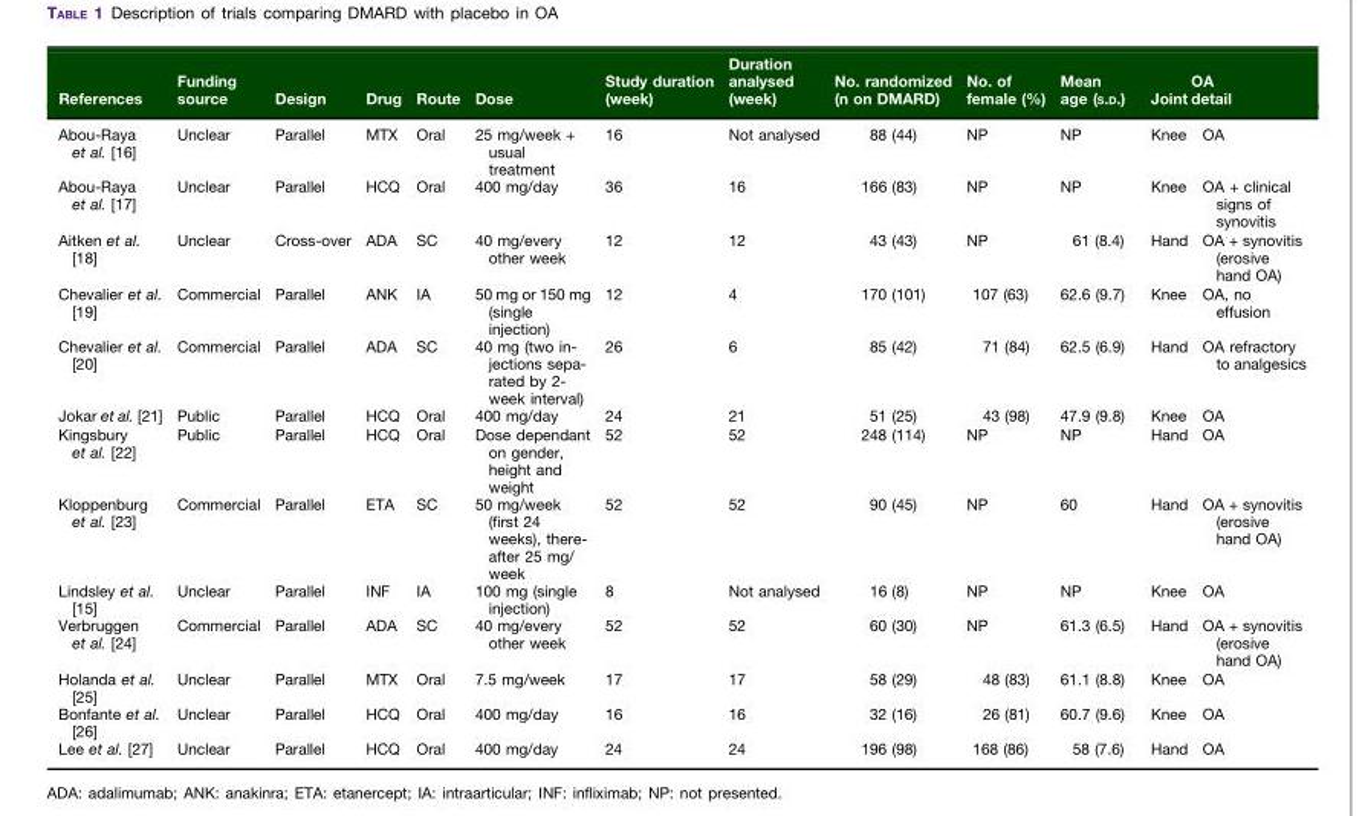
<table><thead><tr><td>References</td><td>Funding source</td><td>Design</td><td>Drug</td><td>Route</td><td>Dose</td><td>Study duration (week)</td><td>Duration analysed (week)</td><td>No. randomized (n on DMARD)</td><td>No. of female (%)</td><td>Mean age (S.D.)</td><td>Joint</td><td>OA detail</td></tr></thead><tbody><tr><td>Abou-Raya et al. [16]</td><td>Unclear</td><td>Parallel</td><td>MTX</td><td>Oral</td><td>25 mg/week + usual treatment</td><td>16</td><td>Not analysed</td><td>88 (44)</td><td>NP</td><td>NP</td><td>Knee</td><td>OA</td></tr><tr><td>Abou-Raya et al. [17]</td><td>Unclear</td><td>Parallel</td><td>HCQ</td><td>Oral</td><td>400 mg/day</td><td>36</td><td>16</td><td>166 (83)</td><td>NP</td><td>NP</td><td>Knee</td><td>OA + clinical signs of synovitis</td></tr><tr><td>Aitken et al. [18]</td><td>Unclear</td><td>Cross-over</td><td>ADA</td><td>SC</td><td>40 mg/every other week</td><td>12</td><td>12</td><td>43 (43)</td><td>NP</td><td>61 (8.4)</td><td>Hand</td><td>OA + synovitis (erosive hand OA)</td></tr><tr><td>Chevalier et al. [19]</td><td>Commercial</td><td>Parallel</td><td>ANK</td><td>IA</td><td>50 mg or 150 mg (single injection)</td><td>12</td><td>4</td><td>170 (101)</td><td>107 (63)</td><td>62.6 (9.7)</td><td>Knee</td><td>OA, no effusion</td></tr><tr><td>Chevalier et al. [20]</td><td>Commercial</td><td>Parallel</td><td>ADA</td><td>SC</td><td>40 mg (two in- jections sepa- rated by 2- week interval)</td><td>26</td><td>6</td><td>85 (42)</td><td>71 (84)</td><td>62.5 (6.9)</td><td>Hand</td><td>OA refractory to analgesics</td></tr><tr><td>Jokar et al. [21]</td><td>Public</td><td>Parallel</td><td>HCQ</td><td>Oral</td><td>400 mg/day</td><td>24</td><td>21</td><td>51 (25)</td><td>43 (98)</td><td>47.9 (9.8)</td><td>Knee</td><td>OA</td></tr><tr><td>Kingsbury et al. [22]</td><td>Public</td><td>Parallel</td><td>HCQ</td><td>Oral</td><td>Dose dependant on gender, height and weight</td><td>52</td><td>52</td><td>248 (114)</td><td>NP</td><td>NP</td><td>Hand</td><td>OA</td></tr><tr><td>Kloppenburg et al. [23]</td><td>Commercial</td><td>Parallel</td><td>ETA</td><td>SC</td><td>50 mg/week (first 24 weeks), there- after 25 mg/ week</td><td>52</td><td>52</td><td>90 (45)</td><td>NP</td><td>60</td><td>Hand</td><td>OA + synovitis (erosive hand OA)</td></tr><tr><td>Lindsley et al. [15]</td><td>Unclear</td><td>Parallel</td><td>INF</td><td>IA</td><td>100 mg (single injection)</td><td>8</td><td>Not analysed</td><td>16 (8)</td><td>NP</td><td>NP</td><td>Knee</td><td>OA</td></tr><tr><td>Verbruggen et al. [24]</td><td>Commercial</td><td>Parallel</td><td>ADA</td><td>SC</td><td>40 mg/every other week</td><td>52</td><td>52</td><td>60 (30)</td><td>NP</td><td>61.3 (6.5)</td><td>Hand</td><td>OA + synovitis (erosive hand OA)</td></tr><tr><td>Holanda et al. [25]</td><td>Unclear</td><td>Parallel</td><td>MTX</td><td>Oral</td><td>7.5 mg/week</td><td>17</td><td>17</td><td>58 (29)</td><td>48 (83)</td><td>61.1 (8.8)</td><td>Knee</td><td>OA</td></tr><tr><td>Bonfante et al. [26]</td><td>Unclear</td><td>Parallel</td><td>HCQ</td><td>Oral</td><td>400 mg/day</td><td>16</td><td>16</td><td>32 (16)</td><td>26 (81)</td><td>60.7 (9.6)</td><td>Knee</td><td>OA</td></tr><tr><td>Lee et al. [27]</td><td>Unclear</td><td>Parallel</td><td>HCQ</td><td>Oral</td><td>400 mg/day</td><td>24</td><td>24</td><td>196 (98)</td><td>168 (86)</td><td>58 (7.6)</td><td>Hand</td><td>OA</td></tr></tbody></table>